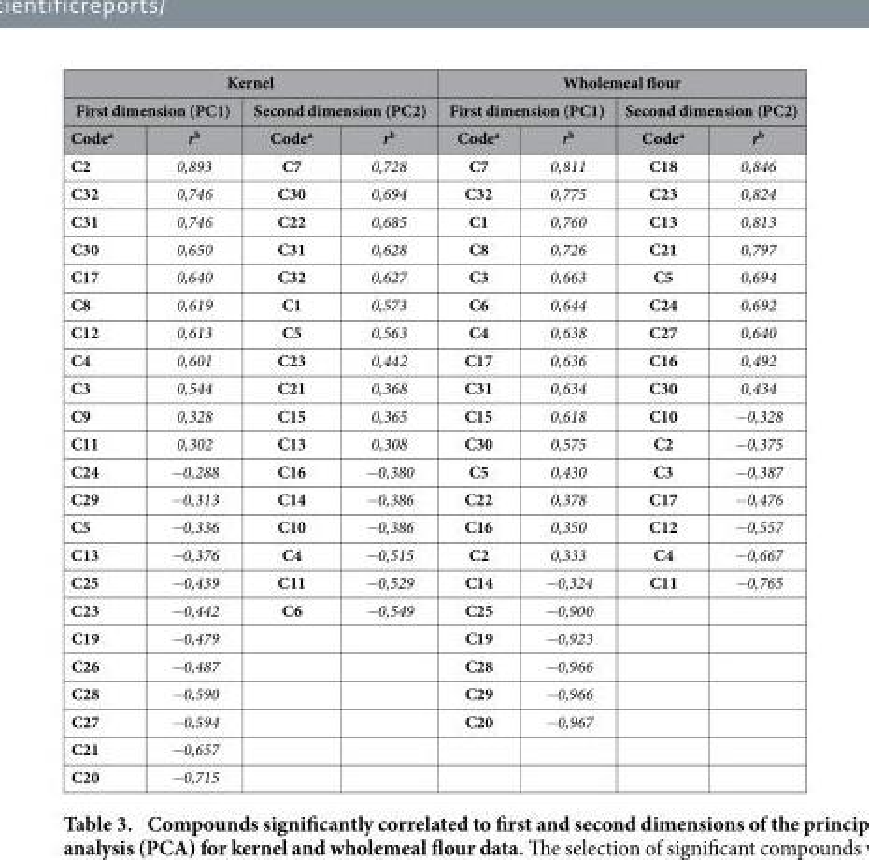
<table><thead><tr><td colspan="4">Kernel</td><td colspan="4">Wholemeal flour</td></tr><tr><td colspan="2">First dimension (PC1)</td><td colspan="2">Second dimension (PC2)</td><td colspan="2">First dimension (PC1)</td><td colspan="2">Second dimension (PC2)</td></tr><tr><td>Code<sup>a</sup></td><td>r<sup>b</sup></td><td>Code<sup>a</sup></td><td>r<sup>b</sup></td><td>Code<sup>a</sup></td><td>r<sup>b</sup></td><td>Code<sup>a</sup></td><td>r<sup>b</sup></td></tr></thead><tbody><tr><td>C2</td><td>0,893</td><td>C7</td><td>0,728</td><td>C7</td><td>0,811</td><td>C18</td><td>0,846</td></tr><tr><td>C32</td><td>0,746</td><td>C30</td><td>0,694</td><td>C32</td><td>0,775</td><td>C23</td><td>0,824</td></tr><tr><td>C31</td><td>0,746</td><td>C22</td><td>0,685</td><td>C1</td><td>0,760</td><td>C13</td><td>0,813</td></tr><tr><td>C30</td><td>0,650</td><td>C31</td><td>0,628</td><td>C8</td><td>0,726</td><td>C21</td><td>0,797</td></tr><tr><td>C17</td><td>0,640</td><td>C32</td><td>0,627</td><td>C3</td><td>0,663</td><td>C5</td><td>0,694</td></tr><tr><td>C8</td><td>0,619</td><td>C1</td><td>0,573</td><td>C6</td><td>0,644</td><td>C24</td><td>0,692</td></tr><tr><td>C12</td><td>0,613</td><td>C5</td><td>0,563</td><td>C4</td><td>0,638</td><td>C27</td><td>0,640</td></tr><tr><td>C4</td><td>0,601</td><td>C23</td><td>0,442</td><td>C17</td><td>0,636</td><td>C16</td><td>0,492</td></tr><tr><td>C3</td><td>0,544</td><td>C21</td><td>0,368</td><td>C31</td><td>0,634</td><td>C30</td><td>0,434</td></tr><tr><td>C9</td><td>0,328</td><td>C15</td><td>0,365</td><td>C15</td><td>0,618</td><td>C10</td><td>−0,328</td></tr><tr><td>C11</td><td>0,302</td><td>C13</td><td>0,308</td><td>C30</td><td>0,575</td><td>C2</td><td>−0,375</td></tr><tr><td>C24</td><td>−0,288</td><td>C16</td><td>−0,380</td><td>C5</td><td>0,430</td><td>C3</td><td>−0,387</td></tr><tr><td>C29</td><td>−0,313</td><td>C14</td><td>−0,386</td><td>C22</td><td>0,378</td><td>C17</td><td>−0,476</td></tr><tr><td>C5</td><td>−0,336</td><td>C10</td><td>−0,386</td><td>C16</td><td>0,350</td><td>C12</td><td>−0,557</td></tr><tr><td>C13</td><td>−0,376</td><td>C4</td><td>−0,515</td><td>C2</td><td>0,333</td><td>C4</td><td>−0,667</td></tr><tr><td>C25</td><td>−0,439</td><td>C11</td><td>−0,529</td><td>C14</td><td>−0,324</td><td>C11</td><td>−0,765</td></tr><tr><td>C23</td><td>−0,442</td><td>C6</td><td>−0,549</td><td>C25</td><td>−0,900</td><td></td><td></td></tr><tr><td>C19</td><td>−0,479</td><td></td><td></td><td>C19</td><td>−0,923</td><td></td><td></td></tr><tr><td>C26</td><td>−0,487</td><td></td><td></td><td>C28</td><td>−0,966</td><td></td><td></td></tr><tr><td>C28</td><td>−0,590</td><td></td><td></td><td>C29</td><td>−0,966</td><td></td><td></td></tr><tr><td>C27</td><td>−0,594</td><td></td><td></td><td>C20</td><td>−0,967</td><td></td><td></td></tr><tr><td>C21</td><td>−0,657</td><td></td><td></td><td></td><td></td><td></td><td></td></tr><tr><td>C20</td><td>−0,715</td><td></td><td></td><td></td><td></td><td></td><td></td></tr></tbody></table>